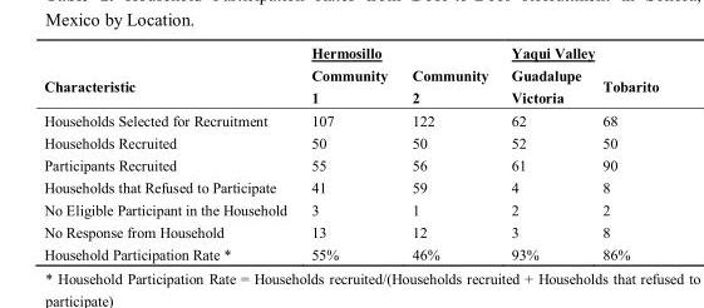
<table><thead><tr><td rowspan="2">Characteristic</td><td colspan="2">Hermosillo</td><td colspan="2">Yaqui Valley</td></tr><tr><td>Community 1</td><td>Community 2</td><td>Guadalupe Victoria</td><td>Tobarito</td></tr></thead><tbody><tr><td>Households Selected for Recruitment</td><td>107</td><td>122</td><td>62</td><td>68</td></tr><tr><td>Households Recruited</td><td>50</td><td>50</td><td>52</td><td>50</td></tr><tr><td>Participants Recruited</td><td>55</td><td>56</td><td>61</td><td>90</td></tr><tr><td>Households that Refused to Participate</td><td>41</td><td>59</td><td>4</td><td>8</td></tr><tr><td>No Eligible Participant in the Household</td><td>3</td><td>1</td><td>2</td><td>2</td></tr><tr><td>No Response from Household</td><td>13</td><td>12</td><td>3</td><td>8</td></tr><tr><td>Household Participation Rate *</td><td>55%</td><td>46%</td><td>93%</td><td>86%</td></tr></tbody></table>